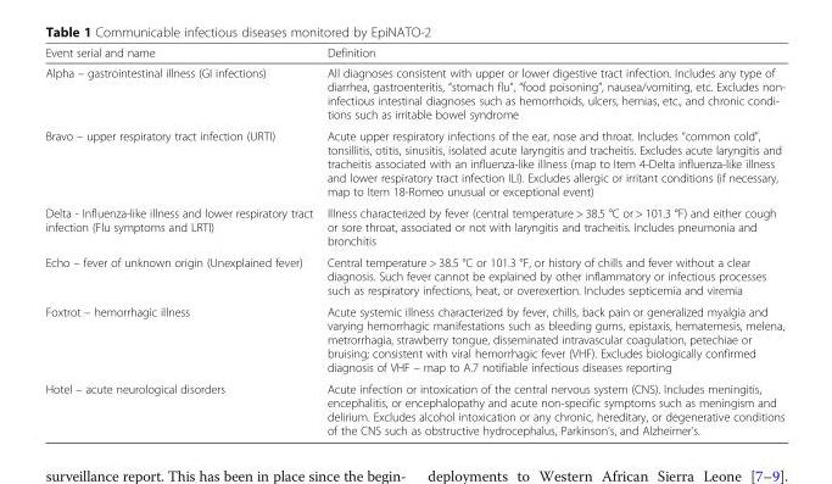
<table><thead><tr><td>Event serial and name</td><td>Definition</td></tr></thead><tbody><tr><td>Alpha – gastrointestinal illness (GI infections)</td><td>All diagnoses consistent with upper or lower digestive tract infection. Includes any type of diarrhea, gastroenteritis, “stomach flu”, “food poisoning”, nausea/vomiting, etc. Excludes non- infectious intestinal diagnoses such as hemorrhoids, ulcers, hernias, etc., and chronic condi- tions such as irritable bowel syndrome</td></tr><tr><td>Bravo – upper respiratory tract infection (URTI)</td><td>Acute upper respiratory infections of the ear, nose and throat. Includes “common cold”, tonsillitis, otitis, sinusitis, isolated acute laryngitis and tracheitis. Excludes acute laryngitis and tracheitis associated with an influenza-like illness (map to Item 4-Delta influenza-like illness and lower respiratory tract infection ILI). Excludes allergic or irritant conditions (if necessary, map to Item 18-Romeo unusual or exceptional event)</td></tr><tr><td>Delta - Influenza-like illness and lower respiratory tract infection (Flu symptoms and LRTI)</td><td>Illness characterized by fever (central temperature &gt; 38.5 °C or &gt; 101.3 °F) and either cough or sore throat, associated or not with laryngitis and tracheitis. Includes pneumonia and bronchitis</td></tr><tr><td>Echo – fever of unknown origin (Unexplained fever)</td><td>Central temperature &gt; 38.5 °C or 101.3 °F, or history of chills and fever without a clear diagnosis. Such fever cannot be explained by other inflammatory or infectious processes such as respiratory infections, heat, or overexertion. Includes septicemia and viremia</td></tr><tr><td>Foxtrot – hemorrhagic illness</td><td>Acute systemic illness characterized by fever, chills, back pain or generalized myalgia and varying hemorrhagic manifestations such as bleeding gums, epistaxis, hematemesis, melena, metrorrhagia, strawberry tongue, disseminated intravascular coagulation, petechiae or bruising; consistent with viral hemorrhagic fever (VHF). Excludes biologically confirmed diagnosis of VHF – map to A.7 notifiable infectious diseases reporting</td></tr><tr><td>Hotel – acute neurological disorders</td><td>Acute infection or intoxication of the central nervous system (CNS). Includes meningitis, encephalitis, or encephalopathy and acute non-specific symptoms such as meningism and delirium. Excludes alcohol intoxication or any chronic, hereditary, or degenerative conditions of the CNS such as obstructive hydrocephalus, Parkinson’s, and Alzheimer’s.</td></tr></tbody></table>